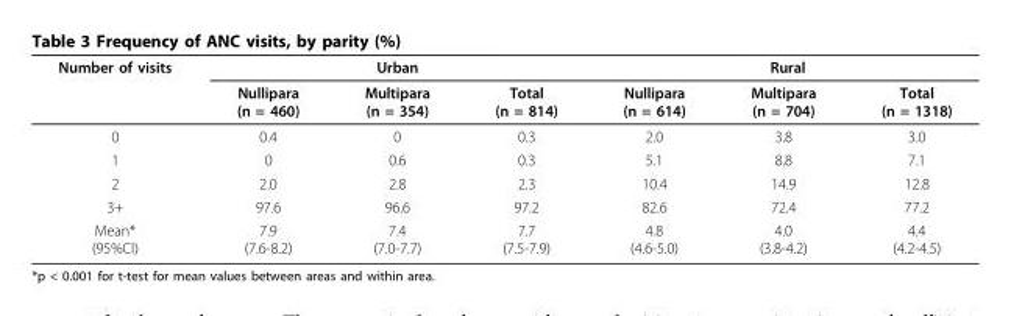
<table><thead><tr><td rowspan="2">Number of visits</td><td colspan="3">Urban</td><td colspan="3">Rural</td></tr><tr><td>Nullipara (n = 460)</td><td>Multipara (n = 354)</td><td>Total (n = 814)</td><td>Nullipara (n = 614)</td><td>Multipara (n = 704)</td><td>Total (n = 1318)</td></tr></thead><tbody><tr><td>0</td><td>0.4</td><td>0</td><td>0.3</td><td>2.0</td><td>3.8</td><td>3.0</td></tr><tr><td>1</td><td>0</td><td>0.6</td><td>0.3</td><td>5.1</td><td>8.8</td><td>7.1</td></tr><tr><td>2</td><td>2.0</td><td>2.8</td><td>2.3</td><td>10.4</td><td>14.9</td><td>12.8</td></tr><tr><td>3+</td><td>97.6</td><td>96.6</td><td>97.2</td><td>82.6</td><td>72.4</td><td>77.2</td></tr><tr><td>Mean* (95%CI)</td><td>7.9 (7.6-8.2)</td><td>7.4 (7.0-7.7)</td><td>7.7 (7.5-7.9)</td><td>4.8 (4.6-5.0)</td><td>4.0 (3.8-4.2)</td><td>4.4 (4.2-4.5)</td></tr></tbody></table>